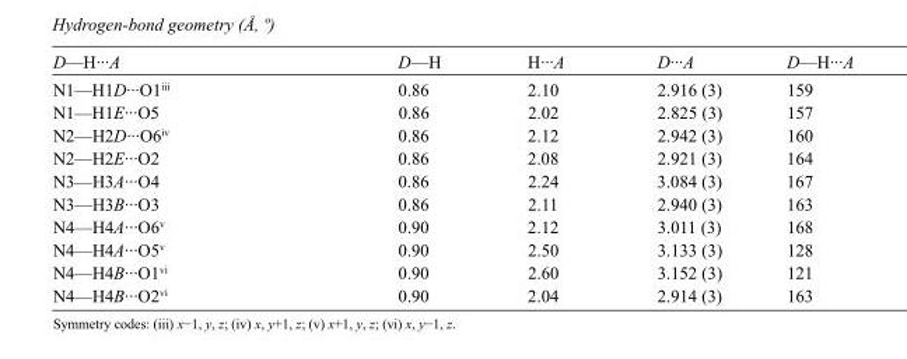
<table><tbody><tr><td>D—H···A</td><td>D—H</td><td>H···A</td><td>D···A</td><td>D—H···A</td></tr><tr><td>N1—H1D···O1<sup>iii</sup></td><td>0.86</td><td>2.10</td><td>2.916 (3)</td><td>159</td></tr><tr><td>N1—H1E···O5</td><td>0.86</td><td>2.02</td><td>2.825 (3)</td><td>157</td></tr><tr><td>N2—H2D···O6<sup>iv</sup></td><td>0.86</td><td>2.12</td><td>2.942 (3)</td><td>160</td></tr><tr><td>N2—H2E···O2</td><td>0.86</td><td>2.08</td><td>2.921 (3)</td><td>164</td></tr><tr><td>N3—H3A···O4</td><td>0.86</td><td>2.24</td><td>3.084 (3)</td><td>167</td></tr><tr><td>N3—H3B···O3</td><td>0.86</td><td>2.11</td><td>2.940 (3)</td><td>163</td></tr><tr><td>N4—H4A···O6<sup>v</sup></td><td>0.90</td><td>2.12</td><td>3.011 (3)</td><td>168</td></tr><tr><td>N4—H4A···O5<sup>v</sup></td><td>0.90</td><td>2.50</td><td>3.133 (3)</td><td>128</td></tr><tr><td>N4—H4B···O1<sup>vi</sup></td><td>0.90</td><td>2.60</td><td>3.152 (3)</td><td>121</td></tr><tr><td>N4—H4B···O2<sup>vi</sup></td><td>0.90</td><td>2.04</td><td>2.914 (3)</td><td>163</td></tr></tbody></table>